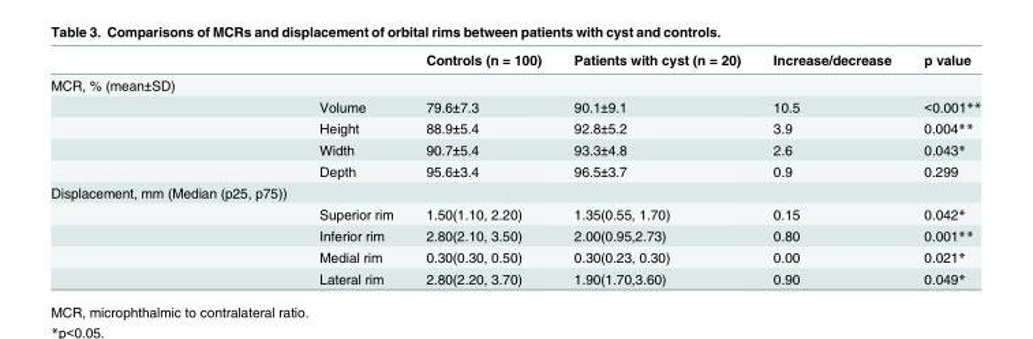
<table><thead><tr><td></td><td></td><td>Controls (n = 100)</td><td>Patients with cyst (n = 20)</td><td>Increase/decrease</td><td>p value</td></tr></thead><tbody><tr><td colspan="6">MCR, % (mean±SD)</td></tr><tr><td></td><td>Volume</td><td>79.6±7.3</td><td>90.1±9.1</td><td>10.5</td><td>&lt;0.001**</td></tr><tr><td></td><td>Height</td><td>88.9±5.4</td><td>92.8±5.2</td><td>3.9</td><td>0.004**</td></tr><tr><td></td><td>Width</td><td>90.7±5.4</td><td>93.3±4.8</td><td>2.6</td><td>0.043*</td></tr><tr><td></td><td>Depth</td><td>95.6±3.4</td><td>96.5±3.7</td><td>0.9</td><td>0.299</td></tr><tr><td colspan="6">Displacement, mm (Median (p25, p75))</td></tr><tr><td></td><td>Superior rim</td><td>1.50(1.10, 2.20)</td><td>1.35(0.55, 1.70)</td><td>0.15</td><td>0.042*</td></tr><tr><td></td><td>Inferior rim</td><td>2.80(2.10, 3.50)</td><td>2.00(0.95,2.73)</td><td>0.80</td><td>0.001**</td></tr><tr><td></td><td>Medial rim</td><td>0.30(0.30, 0.50)</td><td>0.30(0.23, 0.30)</td><td>0.00</td><td>0.021*</td></tr><tr><td></td><td>Lateral rim</td><td>2.80(2.20, 3.70)</td><td>1.90(1.70,3.60)</td><td>0.90</td><td>0.049*</td></tr></tbody></table>